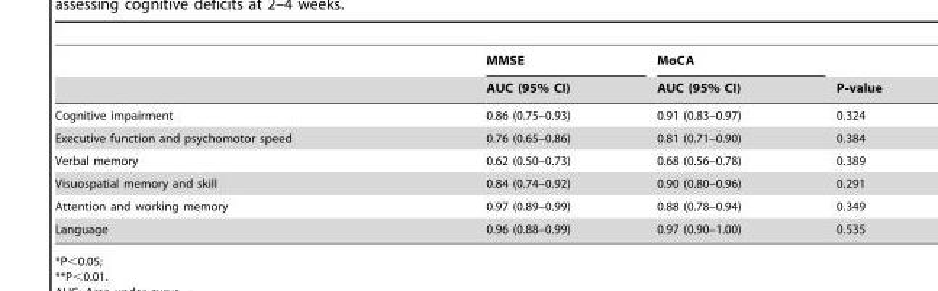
<table><thead><tr><td rowspan="2"></td><td rowspan="2">MMSE AUC (95% CI)</td><td rowspan="2">MoCA AUC (95% CI)</td><td rowspan="2">P-value</td></tr><tr></tr></thead><tbody><tr><td>Cognitive impairment</td><td>0.86 (0.75–0.93)</td><td>0.91 (0.83–0.97)</td><td>0.324</td></tr><tr><td>Executive function and psychomotor speed</td><td>0.76 (0.65–0.86)</td><td>0.81 (0.71–0.90)</td><td>0.384</td></tr><tr><td>Verbal memory</td><td>0.62 (0.50–0.73)</td><td>0.68 (0.56–0.78)</td><td>0.389</td></tr><tr><td>Visuospatial memory and skill</td><td>0.84 (0.74–0.92)</td><td>0.90 (0.80–0.96)</td><td>0.291</td></tr><tr><td>Attention and working memory</td><td>0.97 (0.89–0.99)</td><td>0.88 (0.78–0.94)</td><td>0.349</td></tr><tr><td>Language</td><td>0.96 (0.88–0.99)</td><td>0.97 (0.90–1.00)</td><td>0.535</td></tr></tbody></table>